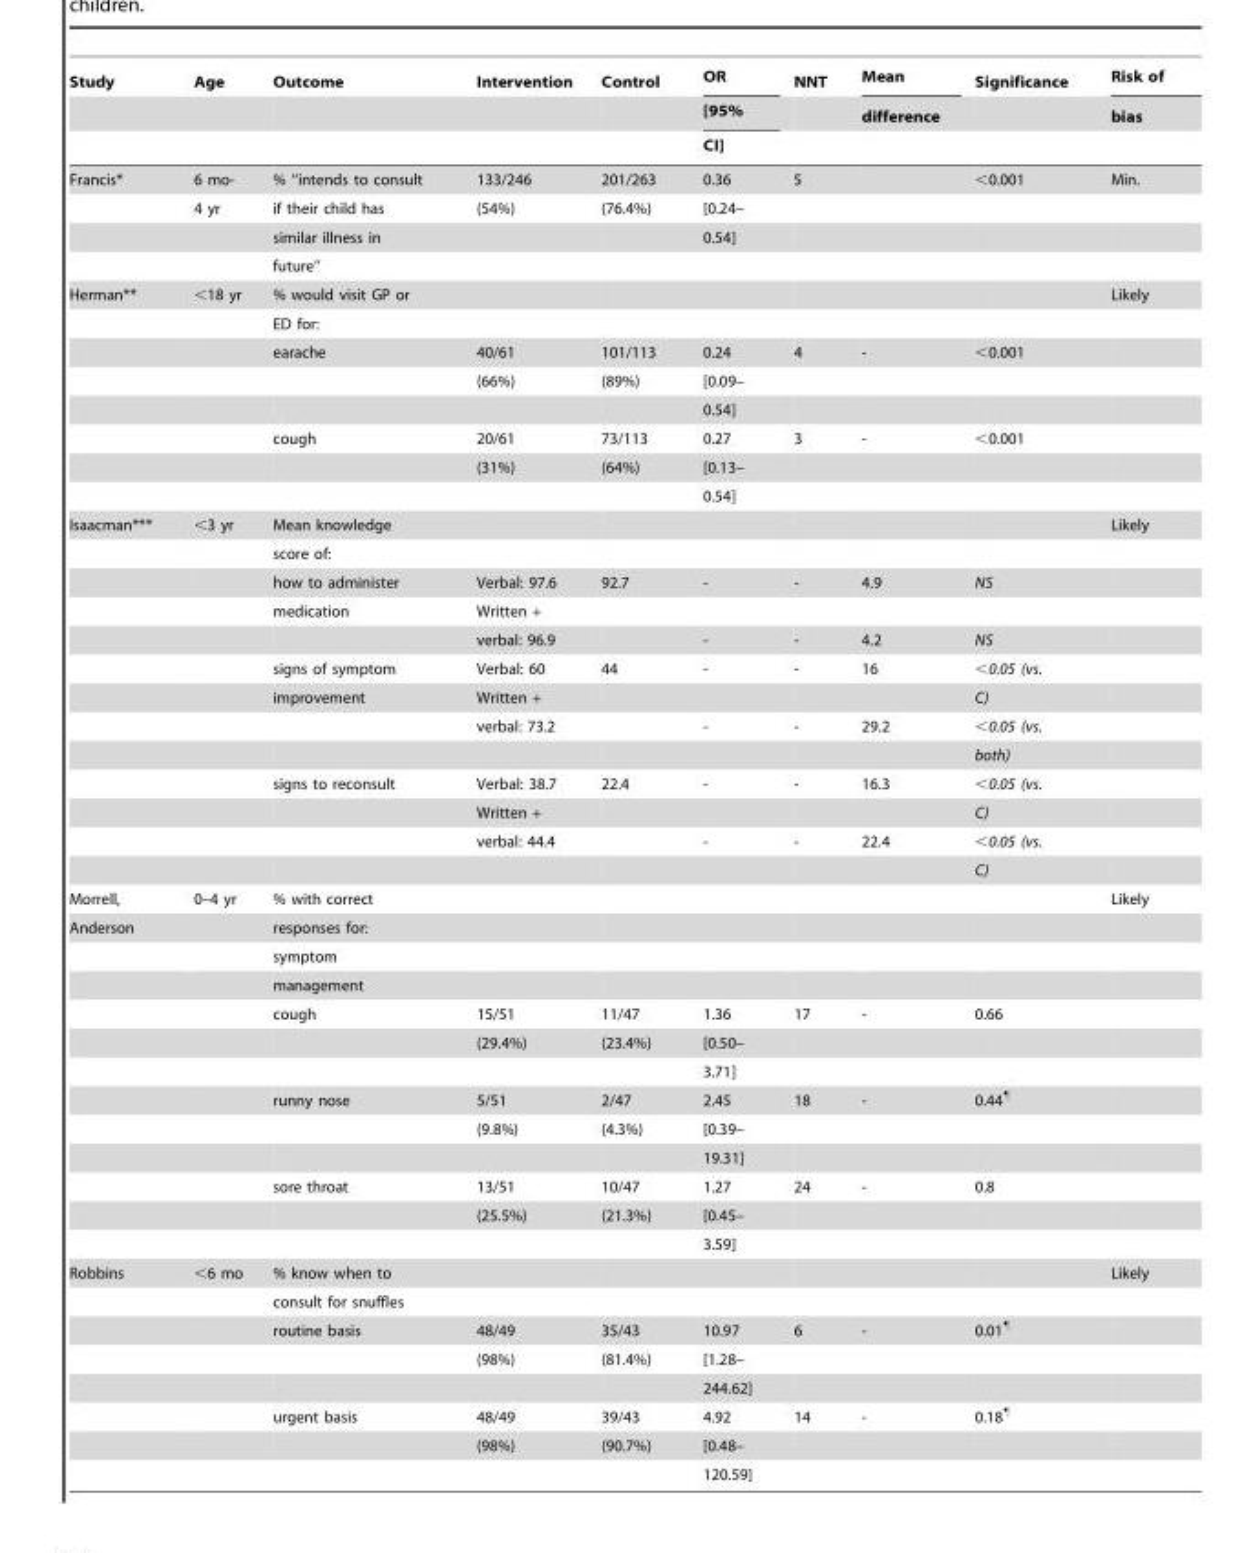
<table><thead><tr><td rowspan="3">Study</td><td rowspan="3">Age</td><td rowspan="3">Outcome</td><td rowspan="3">Intervention</td><td rowspan="3">Control</td><td rowspan="3">OR [95% CI]</td><td rowspan="3">NNT</td><td rowspan="3">Mean difference</td><td rowspan="3">Significance</td><td rowspan="3">Risk of bias</td></tr><tr></tr><tr></tr></thead><tbody><tr><td rowspan="4">Francis*</td><td>6 mo-</td><td>% ‘‘intends to consult</td><td>133/246</td><td>201/263</td><td>0.36</td><td>5</td><td></td><td>&lt;0.001</td><td>Min.</td></tr><tr><td>4 yr</td><td>if their child has</td><td>(54%)</td><td>(76.4%)</td><td>[0.24–</td><td></td><td></td><td></td><td></td></tr><tr><td></td><td>similar illness in</td><td></td><td></td><td>0.54]</td><td></td><td></td><td></td><td></td></tr><tr><td></td><td>future’’</td><td></td><td></td><td></td><td></td><td></td><td></td><td></td></tr><tr><td rowspan="8">Herman**</td><td>&lt;18 yr</td><td>% would visit GP or</td><td></td><td></td><td></td><td></td><td></td><td></td><td>Likely</td></tr><tr><td></td><td>ED for:</td><td></td><td></td><td></td><td></td><td></td><td></td><td></td></tr><tr><td></td><td>earache</td><td>40/61</td><td>101/113</td><td>0.24</td><td>4</td><td>-</td><td>&lt;0.001</td><td></td></tr><tr><td></td><td></td><td>(66%)</td><td>(89%)</td><td>[0.09–</td><td></td><td></td><td></td><td></td></tr><tr><td></td><td></td><td></td><td></td><td>0.54]</td><td></td><td></td><td></td><td></td></tr><tr><td></td><td>cough</td><td>20/61</td><td>73/113</td><td>0.27</td><td>3</td><td>-</td><td>&lt;0.001</td><td></td></tr><tr><td></td><td></td><td>(31%)</td><td>(64%)</td><td>[0.13–</td><td></td><td></td><td></td><td></td></tr><tr><td></td><td></td><td></td><td></td><td>0.54]</td><td></td><td></td><td></td><td></td></tr><tr><td rowspan="13">Isaacman***</td><td>&lt;3 yr</td><td>Mean knowledge</td><td></td><td></td><td></td><td></td><td></td><td></td><td>Likely</td></tr><tr><td></td><td>score of:</td><td></td><td></td><td></td><td></td><td></td><td></td><td></td></tr><tr><td></td><td>how to administer</td><td>Verbal: 97.6</td><td>92.7</td><td>-</td><td>-</td><td>4.9</td><td>NS</td><td></td></tr><tr><td></td><td>medication</td><td>Written +</td><td></td><td></td><td></td><td></td><td></td><td></td></tr><tr><td></td><td></td><td>verbal: 96.9</td><td></td><td>-</td><td>-</td><td>4.2</td><td>NS</td><td></td></tr><tr><td></td><td>signs of symptom</td><td>Verbal: 60</td><td>44</td><td>-</td><td>-</td><td>16</td><td>&lt;0.05 (vs.</td><td></td></tr><tr><td></td><td>improvement</td><td>Written +</td><td></td><td></td><td></td><td></td><td>C)</td><td></td></tr><tr><td></td><td></td><td>verbal: 73.2</td><td></td><td>-</td><td>-</td><td>29.2</td><td>&lt;0.05 (vs.</td><td></td></tr><tr><td></td><td></td><td></td><td></td><td></td><td></td><td></td><td>both)</td><td></td></tr><tr><td></td><td>signs to reconsult</td><td>Verbal: 38.7</td><td>22.4</td><td>-</td><td>-</td><td>16.3</td><td>&lt;0.05 (vs.</td><td></td></tr><tr><td></td><td></td><td>Written +</td><td></td><td></td><td></td><td></td><td>C)</td><td></td></tr><tr><td></td><td></td><td>verbal: 44.4</td><td></td><td>-</td><td>-</td><td>22.4</td><td>&lt;0.05 (vs.</td><td></td></tr><tr><td></td><td></td><td></td><td></td><td></td><td></td><td></td><td>C)</td><td></td></tr><tr><td>Morrell,</td><td>0–4 yr</td><td>% with correct</td><td></td><td></td><td></td><td></td><td></td><td></td><td>Likely</td></tr><tr><td rowspan="12">Anderson</td><td></td><td>responses for:</td><td></td><td></td><td></td><td></td><td></td><td></td><td></td></tr><tr><td></td><td>symptom</td><td></td><td></td><td></td><td></td><td></td><td></td><td></td></tr><tr><td></td><td>management</td><td></td><td></td><td></td><td></td><td></td><td></td><td></td></tr><tr><td></td><td>cough</td><td>15/51</td><td>11/47</td><td>1.36</td><td>17</td><td>-</td><td>0.66</td><td></td></tr><tr><td></td><td></td><td>(29.4%)</td><td>(23.4%)</td><td>[0.50–</td><td></td><td></td><td></td><td></td></tr><tr><td></td><td></td><td></td><td></td><td>3.71]</td><td></td><td></td><td></td><td></td></tr><tr><td></td><td>runny nose</td><td>5/51</td><td>2/47</td><td>2.45</td><td>18</td><td>-</td><td>0.44¶</td><td></td></tr><tr><td></td><td></td><td>(9.8%)</td><td>(4.3%)</td><td>[0.39–</td><td></td><td></td><td></td><td></td></tr><tr><td></td><td></td><td></td><td></td><td>19.31]</td><td></td><td></td><td></td><td></td></tr><tr><td></td><td>sore throat</td><td>13/51</td><td>10/47</td><td>1.27</td><td>24</td><td>-</td><td>0.8</td><td></td></tr><tr><td></td><td></td><td>(25.5%)</td><td>(21.3%)</td><td>[0.45–</td><td></td><td></td><td></td><td></td></tr><tr><td></td><td></td><td></td><td></td><td>3.59]</td><td></td><td></td><td></td><td></td></tr><tr><td rowspan="8">Robbins</td><td>&lt;6 mo</td><td>% know when to</td><td></td><td></td><td></td><td></td><td></td><td></td><td>Likely</td></tr><tr><td></td><td>consult for snuffles</td><td></td><td></td><td></td><td></td><td></td><td></td><td></td></tr><tr><td></td><td>routine basis</td><td>48/49</td><td>35/43</td><td>10.97</td><td>6</td><td>-</td><td>0.01¶</td><td></td></tr><tr><td></td><td></td><td>(98%)</td><td>(81.4%)</td><td>[1.28–</td><td></td><td></td><td></td><td></td></tr><tr><td></td><td></td><td></td><td></td><td>244.62]</td><td></td><td></td><td></td><td></td></tr><tr><td></td><td>urgent basis</td><td>48/49</td><td>39/43</td><td>4.92</td><td>14</td><td>-</td><td>0.18¶</td><td></td></tr><tr><td></td><td></td><td>(98%)</td><td>(90.7%)</td><td>[0.48–</td><td></td><td></td><td></td><td></td></tr><tr><td></td><td></td><td></td><td></td><td>120.59]</td><td></td><td></td><td></td><td></td></tr></tbody></table>